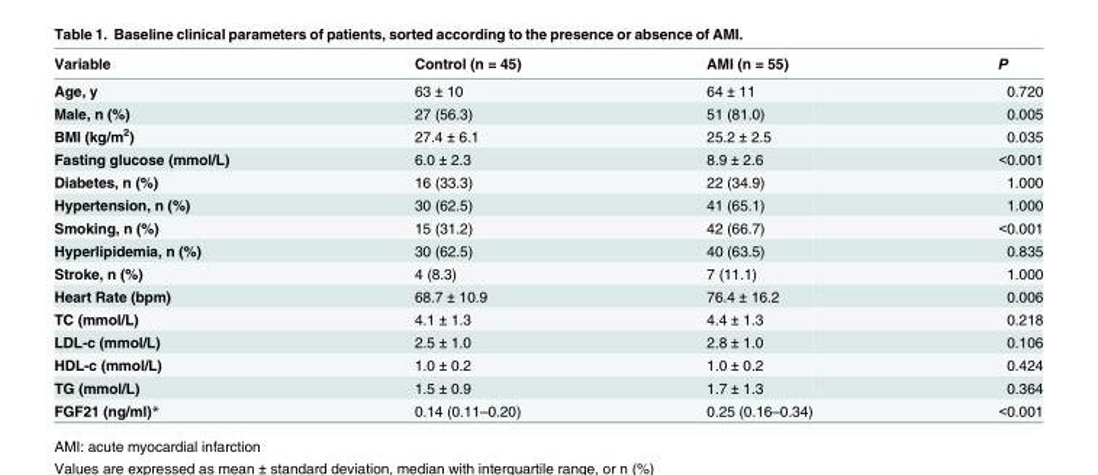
<table><thead><tr><td>Variable</td><td>Control (n = 45)</td><td>AMI (n = 55)</td><td>P</td></tr></thead><tbody><tr><td>Age, y</td><td>63 ± 10</td><td>64 ± 11</td><td>0.720</td></tr><tr><td>Male, n (%)</td><td>27 (56.3)</td><td>51 (81.0)</td><td>0.005</td></tr><tr><td>BMI (kg/m<sup>2</sup>)</td><td>27.4 ± 6.1</td><td>25.2 ± 2.5</td><td>0.035</td></tr><tr><td>Fasting glucose (mmol/L)</td><td>6.0 ± 2.3</td><td>8.9 ± 2.6</td><td>&lt;0.001</td></tr><tr><td>Diabetes, n (%)</td><td>16 (33.3)</td><td>22 (34.9)</td><td>1.000</td></tr><tr><td>Hypertension, n (%)</td><td>30 (62.5)</td><td>41 (65.1)</td><td>1.000</td></tr><tr><td>Smoking, n (%)</td><td>15 (31.2)</td><td>42 (66.7)</td><td>&lt;0.001</td></tr><tr><td>Hyperlipidemia, n (%)</td><td>30 (62.5)</td><td>40 (63.5)</td><td>0.835</td></tr><tr><td>Stroke, n (%)</td><td>4 (8.3)</td><td>7 (11.1)</td><td>1.000</td></tr><tr><td>Heart Rate (bpm)</td><td>68.7 ± 10.9</td><td>76.4 ± 16.2</td><td>0.006</td></tr><tr><td>TC (mmol/L)</td><td>4.1 ± 1.3</td><td>4.4 ± 1.3</td><td>0.218</td></tr><tr><td>LDL-c (mmol/L)</td><td>2.5 ± 1.0</td><td>2.8 ± 1.0</td><td>0.106</td></tr><tr><td>HDL-c (mmol/L)</td><td>1.0 ± 0.2</td><td>1.0 ± 0.2</td><td>0.424</td></tr><tr><td>TG (mmol/L)</td><td>1.5 ± 0.9</td><td>1.7 ± 1.3</td><td>0.364</td></tr><tr><td>FGF21 (ng/ml)*</td><td>0.14 (0.11–0.20)</td><td>0.25 (0.16–0.34)</td><td>&lt;0.001</td></tr></tbody></table>